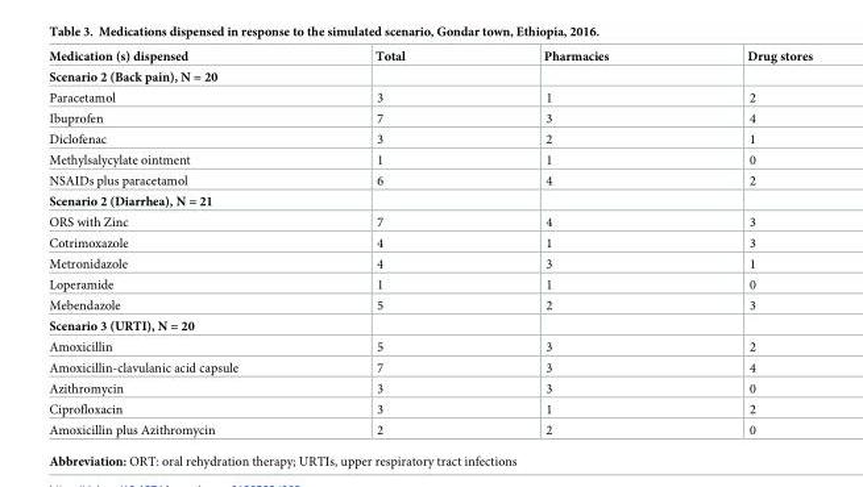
<table><thead><tr><td>Medication (s) dispensed</td><td>Total</td><td>Pharmacies</td><td>Drug stores</td></tr></thead><tbody><tr><td colspan="4">Scenario 2 (Back pain), N = 20</td></tr><tr><td>Paracetamol</td><td>3</td><td>1</td><td>2</td></tr><tr><td>Ibuprofen</td><td>7</td><td>3</td><td>4</td></tr><tr><td>Diclofenac</td><td>3</td><td>2</td><td>1</td></tr><tr><td>Methylsalycylate ointment</td><td>1</td><td>1</td><td>0</td></tr><tr><td>NSAIDs plus paracetamol</td><td>6</td><td>4</td><td>2</td></tr><tr><td colspan="4">Scenario 2 (Diarrhea), N = 21</td></tr><tr><td>ORS with Zinc</td><td>7</td><td>4</td><td>3</td></tr><tr><td>Cotrimoxazole</td><td>4</td><td>1</td><td>3</td></tr><tr><td>Metronidazole</td><td>4</td><td>3</td><td>1</td></tr><tr><td>Loperamide</td><td>1</td><td>1</td><td>0</td></tr><tr><td>Mebendazole</td><td>5</td><td>2</td><td>3</td></tr><tr><td colspan="4">Scenario 3 (URTI), N = 20</td></tr><tr><td>Amoxicillin</td><td>5</td><td>3</td><td>2</td></tr><tr><td>Amoxicillin-clavulanic acid capsule</td><td>7</td><td>3</td><td>4</td></tr><tr><td>Azithromycin</td><td>3</td><td>3</td><td>0</td></tr><tr><td>Ciprofloxacin</td><td>3</td><td>1</td><td>2</td></tr><tr><td>Amoxicillin plus Azithromycin</td><td>2</td><td>2</td><td>0</td></tr></tbody></table>